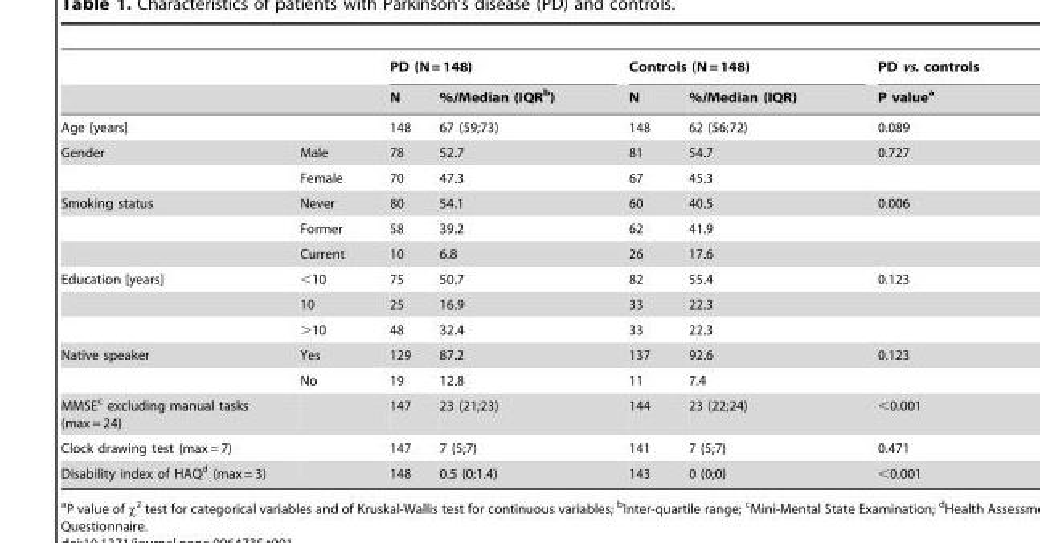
<table><thead><tr><td rowspan="2"></td><td rowspan="2"></td><td colspan="2">PD (N = 148)</td><td colspan="2">Controls (N = 148)</td><td rowspan="2">PD vs. controls P value<sup>a</sup></td></tr><tr><td>N</td><td>%/Median (IQR<sup>b</sup>)</td><td>N</td><td>%/Median (IQR)</td></tr></thead><tbody><tr><td>Age [years]</td><td></td><td>148</td><td>67 (59;73)</td><td>148</td><td>62 (56;72)</td><td>0.089</td></tr><tr><td rowspan="2">Gender</td><td>Male</td><td>78</td><td>52.7</td><td>81</td><td>54.7</td><td>0.727</td></tr><tr><td>Female</td><td>70</td><td>47.3</td><td>67</td><td>45.3</td><td></td></tr><tr><td rowspan="3">Smoking status</td><td>Never</td><td>80</td><td>54.1</td><td>60</td><td>40.5</td><td>0.006</td></tr><tr><td>Former</td><td>58</td><td>39.2</td><td>62</td><td>41.9</td><td></td></tr><tr><td>Current</td><td>10</td><td>6.8</td><td>26</td><td>17.6</td><td></td></tr><tr><td rowspan="3">Education [years]</td><td>&lt;10</td><td>75</td><td>50.7</td><td>82</td><td>55.4</td><td>0.123</td></tr><tr><td>10</td><td>25</td><td>16.9</td><td>33</td><td>22.3</td><td></td></tr><tr><td>&gt;10</td><td>48</td><td>32.4</td><td>33</td><td>22.3</td><td></td></tr><tr><td rowspan="2">Native speaker</td><td>Yes</td><td>129</td><td>87.2</td><td>137</td><td>92.6</td><td>0.123</td></tr><tr><td>No</td><td>19</td><td>12.8</td><td>11</td><td>7.4</td><td></td></tr><tr><td>MMSE<sup>c</sup> excluding manual tasks (max = 24)</td><td></td><td>147</td><td>23 (21;23)</td><td>144</td><td>23 (22;24)</td><td>&lt;0.001</td></tr><tr><td>Clock drawing test (max = 7)</td><td></td><td>147</td><td>7 (5;7)</td><td>141</td><td>7 (5;7)</td><td>0.471</td></tr><tr><td>Disability index of HAQ<sup>d</sup> (max = 3)</td><td></td><td>148</td><td>0.5 (0;1.4)</td><td>143</td><td>0 (0;0)</td><td>&lt;0.001</td></tr></tbody></table>